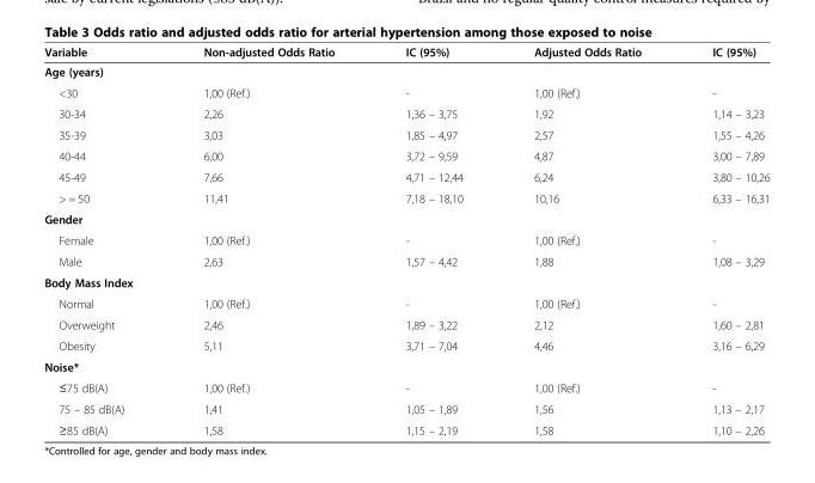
<table><thead><tr><td>Variable</td><td>Non-adjusted Odds Ratio</td><td>IC (95%)</td><td>Adjusted Odds Ratio</td><td>IC (95%)</td></tr></thead><tbody><tr><td colspan="5">Age (years)</td></tr><tr><td>&lt;30</td><td>1,00 (Ref.)</td><td>-</td><td>1,00 (Ref.)</td><td>-</td></tr><tr><td>30-34</td><td>2,26</td><td>1,36 – 3,75</td><td>1,92</td><td>1,14 – 3,23</td></tr><tr><td>35-39</td><td>3,03</td><td>1,85 – 4,97</td><td>2,57</td><td>1,55 – 4,26</td></tr><tr><td>40-44</td><td>6,00</td><td>3,72 – 9,59</td><td>4,87</td><td>3,00 – 7,89</td></tr><tr><td>45-49</td><td>7,66</td><td>4,71 – 12,44</td><td>6,24</td><td>3,80 – 10,26</td></tr><tr><td>&gt; = 50</td><td>11,41</td><td>7,18 – 18,10</td><td>10,16</td><td>6,33 – 16,31</td></tr><tr><td colspan="5">Gender</td></tr><tr><td>Female</td><td>1,00 (Ref.)</td><td>-</td><td>1,00 (Ref.)</td><td>-</td></tr><tr><td>Male</td><td>2,63</td><td>1,57 – 4,42</td><td>1,88</td><td>1,08 – 3,29</td></tr><tr><td colspan="5">Body Mass Index</td></tr><tr><td>Normal</td><td>1,00 (Ref.)</td><td>-</td><td>1,00 (Ref.)</td><td>-</td></tr><tr><td>Overweight</td><td>2,46</td><td>1,89 – 3,22</td><td>2,12</td><td>1,60 – 2,81</td></tr><tr><td>Obesity</td><td>5,11</td><td>3,71 – 7,04</td><td>4,46</td><td>3,16 – 6,29</td></tr><tr><td colspan="5">Noise*</td></tr><tr><td>≤75 dB(A)</td><td>1,00 (Ref.)</td><td>-</td><td>1,00 (Ref.)</td><td>-</td></tr><tr><td>75 – 85 dB(A)</td><td>1,41</td><td>1,05 – 1,89</td><td>1,56</td><td>1,13 – 2,17</td></tr><tr><td>≥85 dB(A)</td><td>1,58</td><td>1,15 – 2,19</td><td>1,58</td><td>1,10 – 2,26</td></tr></tbody></table>